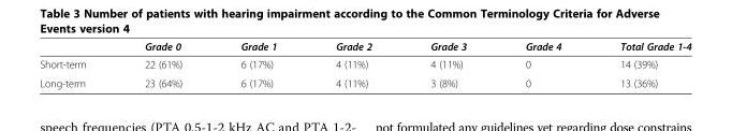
<table><thead><tr><td></td><td>Grade 0</td><td>Grade 1</td><td>Grade 2</td><td>Grade 3</td><td>Grade 4</td><td>Total Grade 1-4</td></tr></thead><tbody><tr><td>Short-term</td><td>22 (61%)</td><td>6 (17%)</td><td>4 (11%)</td><td>4 (11%)</td><td>0</td><td>14 (39%)</td></tr><tr><td>Long-term</td><td>23 (64%)</td><td>6 (17%)</td><td>4 (11%)</td><td>3 (8%)</td><td>0</td><td>13 (36%)</td></tr></tbody></table>